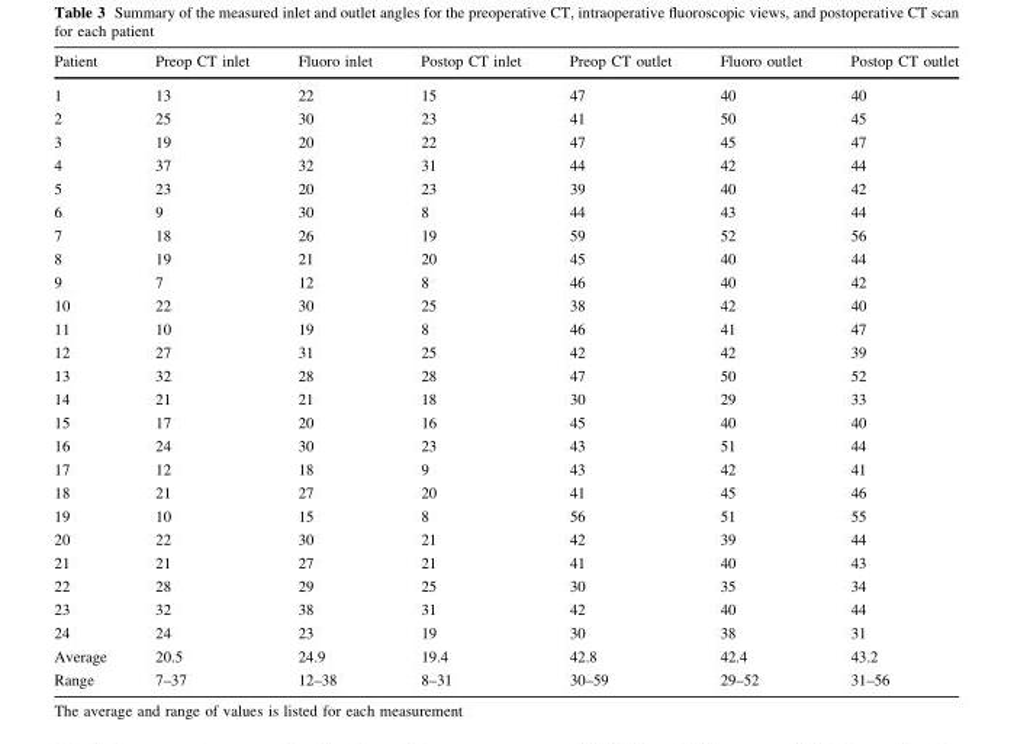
<table><thead><tr><td>Patient</td><td>Preop CT inlet</td><td>Fluoro inlet</td><td>Postop CT inlet</td><td>Preop CT outlet</td><td>Fluoro outlet</td><td>Postop CT outlet</td></tr></thead><tbody><tr><td>1</td><td>13</td><td>22</td><td>15</td><td>47</td><td>40</td><td>40</td></tr><tr><td>2</td><td>25</td><td>30</td><td>23</td><td>41</td><td>50</td><td>45</td></tr><tr><td>3</td><td>19</td><td>20</td><td>22</td><td>47</td><td>45</td><td>47</td></tr><tr><td>4</td><td>37</td><td>32</td><td>31</td><td>44</td><td>42</td><td>44</td></tr><tr><td>5</td><td>23</td><td>20</td><td>23</td><td>39</td><td>40</td><td>42</td></tr><tr><td>6</td><td>9</td><td>30</td><td>8</td><td>44</td><td>43</td><td>44</td></tr><tr><td>7</td><td>18</td><td>26</td><td>19</td><td>59</td><td>52</td><td>56</td></tr><tr><td>8</td><td>19</td><td>21</td><td>20</td><td>45</td><td>40</td><td>44</td></tr><tr><td>9</td><td>7</td><td>12</td><td>8</td><td>46</td><td>40</td><td>42</td></tr><tr><td>10</td><td>22</td><td>30</td><td>25</td><td>38</td><td>42</td><td>40</td></tr><tr><td>11</td><td>10</td><td>19</td><td>8</td><td>46</td><td>41</td><td>47</td></tr><tr><td>12</td><td>27</td><td>31</td><td>25</td><td>42</td><td>42</td><td>39</td></tr><tr><td>13</td><td>32</td><td>28</td><td>28</td><td>47</td><td>50</td><td>52</td></tr><tr><td>14</td><td>21</td><td>21</td><td>18</td><td>30</td><td>29</td><td>33</td></tr><tr><td>15</td><td>17</td><td>20</td><td>16</td><td>45</td><td>40</td><td>40</td></tr><tr><td>16</td><td>24</td><td>30</td><td>23</td><td>43</td><td>51</td><td>44</td></tr><tr><td>17</td><td>12</td><td>18</td><td>9</td><td>43</td><td>42</td><td>41</td></tr><tr><td>18</td><td>21</td><td>27</td><td>20</td><td>41</td><td>45</td><td>46</td></tr><tr><td>19</td><td>10</td><td>15</td><td>8</td><td>56</td><td>51</td><td>55</td></tr><tr><td>20</td><td>22</td><td>30</td><td>21</td><td>42</td><td>39</td><td>44</td></tr><tr><td>21</td><td>21</td><td>27</td><td>21</td><td>41</td><td>40</td><td>43</td></tr><tr><td>22</td><td>28</td><td>29</td><td>25</td><td>30</td><td>35</td><td>34</td></tr><tr><td>23</td><td>32</td><td>38</td><td>31</td><td>42</td><td>40</td><td>44</td></tr><tr><td>24</td><td>24</td><td>23</td><td>19</td><td>30</td><td>38</td><td>31</td></tr><tr><td>Average</td><td>20.5</td><td>24.9</td><td>19.4</td><td>42.8</td><td>42.4</td><td>43.2</td></tr><tr><td>Range</td><td>7–37</td><td>12–38</td><td>8–31</td><td>30–59</td><td>29–52</td><td>31–56</td></tr></tbody></table>